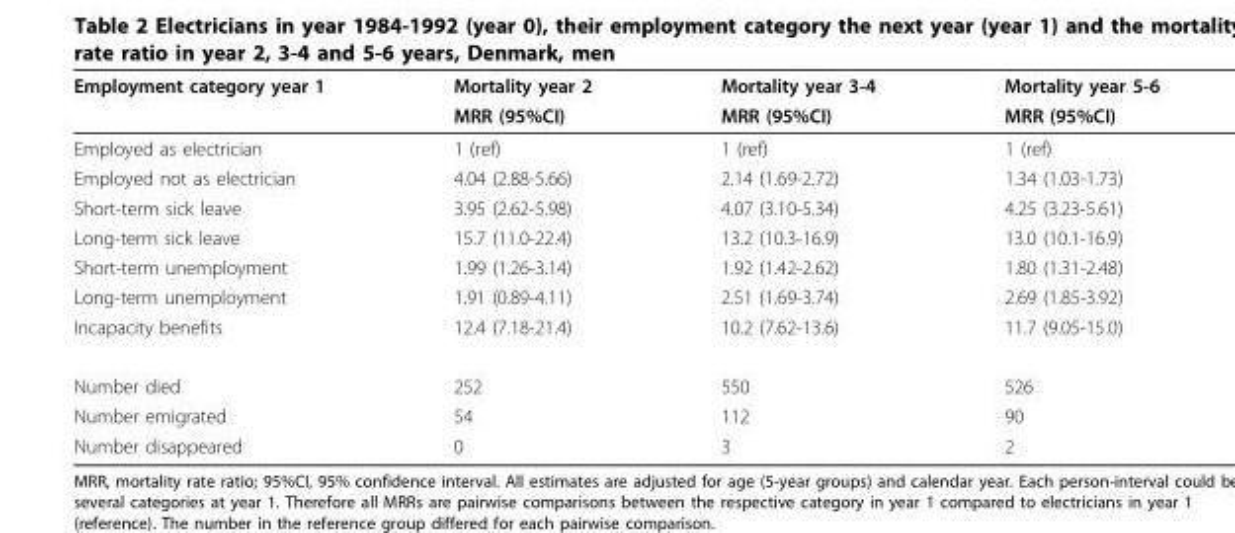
<table><thead><tr><td rowspan="2">Employment category year 1</td><td rowspan="2">Mortality year 2 MRR (95%CI)</td><td rowspan="2">Mortality year 3-4 MRR (95%CI)</td><td rowspan="2">Mortality year 5-6 MRR (95%CI)</td></tr><tr></tr></thead><tbody><tr><td>Employed as electrician</td><td>1 (ref)</td><td>1 (ref)</td><td>1 (ref)</td></tr><tr><td>Employed not as electrician</td><td>4.04 (2.88-5.66)</td><td>2.14 (1.69-2.72)</td><td>1.34 (1.03-1.73)</td></tr><tr><td>Short-term sick leave</td><td>3.95 (2.62-5.98)</td><td>4.07 (3.10-5.34)</td><td>4.25 (3.23-5.61)</td></tr><tr><td>Long-term sick leave</td><td>15.7 (11.0-22.4)</td><td>13.2 (10.3-16.9)</td><td>13.0 (10.1-16.9)</td></tr><tr><td>Short-term unemployment</td><td>1.99 (1.26-3.14)</td><td>1.92 (1.42-2.62)</td><td>1.80 (1.31-2.48)</td></tr><tr><td>Long-term unemployment</td><td>1.91 (0.89-4.11)</td><td>2.51 (1.69-3.74)</td><td>2.69 (1.85-3.92)</td></tr><tr><td>Incapacity benefits</td><td>12.4 (7.18-21.4)</td><td>10.2 (7.62-13.6)</td><td>11.7 (9.05-15.0)</td></tr><tr><td>Number died</td><td>252</td><td>550</td><td>526</td></tr><tr><td>Number emigrated</td><td>54</td><td>112</td><td>90</td></tr><tr><td>Number disappeared</td><td>0</td><td>3</td><td>2</td></tr></tbody></table>